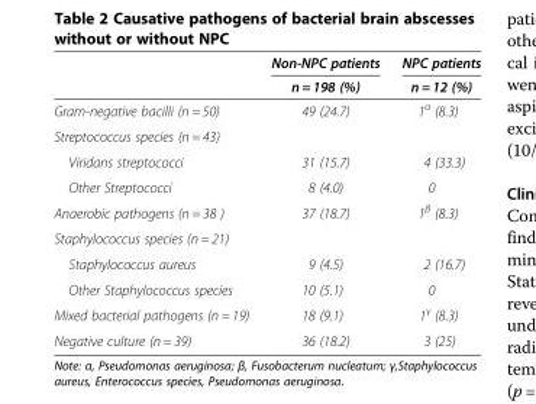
<table><thead><tr><td rowspan="2"></td><td rowspan="2">Non-NPC patients n = 198 (%)</td><td rowspan="2">NPC patients n = 12 (%)</td></tr><tr></tr></thead><tbody><tr><td>Gram-negative bacilli (n = 50)</td><td>49 (24.7)</td><td>1<sup>α</sup> (8.3)</td></tr><tr><td colspan="3">Streptococcus species (n = 43)</td></tr><tr><td>Viridans streptococci</td><td>31 (15.7)</td><td>4 (33.3)</td></tr><tr><td>Other Streptococci</td><td>8 (4.0)</td><td>0</td></tr><tr><td>Anaerobic pathogens (n = 38 )</td><td>37 (18.7)</td><td>1<sup>β</sup> (8.3)</td></tr><tr><td colspan="3">Staphylococcus species (n = 21)</td></tr><tr><td>Staphylococcus aureus</td><td>9 (4.5)</td><td>2 (16.7)</td></tr><tr><td>Other Staphylococcus species</td><td>10 (5.1)</td><td>0</td></tr><tr><td>Mixed bacterial pathogens (n = 19)</td><td>18 (9.1)</td><td>1<sup>γ</sup> (8.3)</td></tr><tr><td>Negative culture (n = 39)</td><td>36 (18.2)</td><td>3 (25)</td></tr></tbody></table>